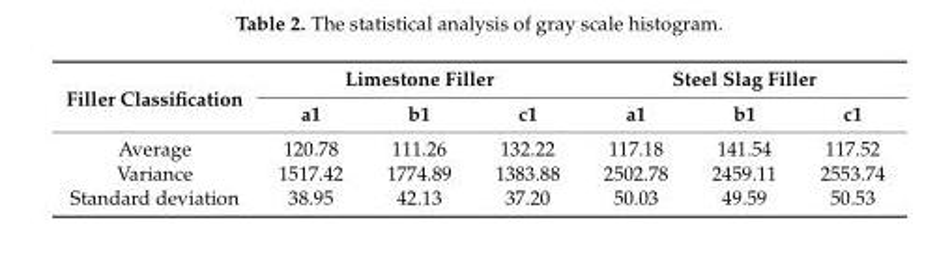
<table><thead><tr><td rowspan="2">Filler Classification</td><td colspan="3">Limestone Filler</td><td colspan="3">Steel Slag Filler</td></tr><tr><td>a1</td><td>b1</td><td>c1</td><td>a1</td><td>b1</td><td>c1</td></tr></thead><tbody><tr><td>Average</td><td>120.78</td><td>111.26</td><td>132.22</td><td>117.18</td><td>141.54</td><td>117.52</td></tr><tr><td>Variance</td><td>1517.42</td><td>1774.89</td><td>1383.88</td><td>2502.78</td><td>2459.11</td><td>2553.74</td></tr><tr><td>Standard deviation</td><td>38.95</td><td>42.13</td><td>37.20</td><td>50.03</td><td>49.59</td><td>50.53</td></tr></tbody></table>